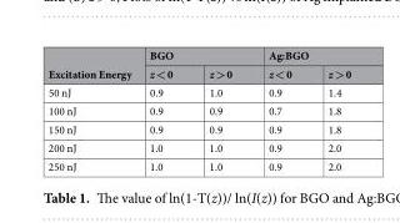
<table><thead><tr><td rowspan="2">Excitation Energy</td><td colspan="2">BGO</td><td colspan="2">Ag:BGO</td></tr><tr><td>z &lt; 0</td><td>z &gt; 0</td><td>z &lt; 0</td><td>z &gt; 0</td></tr></thead><tbody><tr><td>50 nJ</td><td>0.9</td><td>1.0</td><td>0.9</td><td>1.4</td></tr><tr><td>100 nJ</td><td>0.9</td><td>0.9</td><td>0.7</td><td>1.8</td></tr><tr><td>150 nJ</td><td>0.9</td><td>0.9</td><td>0.9</td><td>1.8</td></tr><tr><td>200 nJ</td><td>1.0</td><td>1.0</td><td>0.9</td><td>2.0</td></tr><tr><td>250 nJ</td><td>1.0</td><td>1.0</td><td>0.9</td><td>2.0</td></tr></tbody></table>